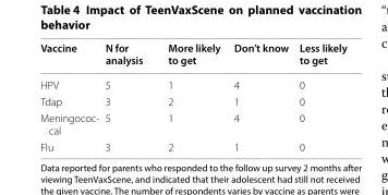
<table><thead><tr><td>Vaccine</td><td>N for analysis</td><td>More likely to get</td><td>Don’t know</td><td>Less likely to get</td></tr></thead><tbody><tr><td>HPV</td><td>5</td><td>1</td><td>4</td><td>0</td></tr><tr><td>Tdap</td><td>3</td><td>2</td><td>1</td><td>0</td></tr><tr><td>Meningococ- cal</td><td>5</td><td>1</td><td>4</td><td>0</td></tr><tr><td>Flu</td><td>3</td><td>2</td><td>1</td><td>0</td></tr></tbody></table>